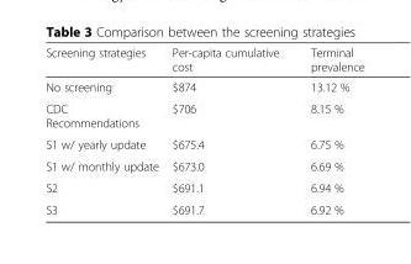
<table><thead><tr><td>Screening strategies</td><td>Per-capita cumulative cost</td><td>Terminal prevalence</td></tr></thead><tbody><tr><td>No screening</td><td>$874</td><td>13.12 %</td></tr><tr><td>CDC Recommendations</td><td>$706</td><td>8.15 %</td></tr><tr><td>S1 w/ yearly update</td><td>$675.4</td><td>6.75 %</td></tr><tr><td>S1 w/ monthly update</td><td>$673.0</td><td>6.69 %</td></tr><tr><td>S2</td><td>$691.1</td><td>6.94 %</td></tr><tr><td>S3</td><td>$691.7</td><td>6.92 %</td></tr></tbody></table>